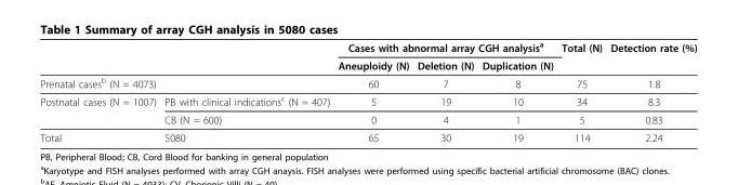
<table><thead><tr><td rowspan="2"></td><td rowspan="2"></td><td colspan="3">Cases with abnormal array CGH analysis<sup>a</sup></td><td rowspan="2">Total (N)</td><td rowspan="2">Detection rate (%)</td></tr><tr><td>Aneuploidy (N)</td><td>Deletion (N)</td><td>Duplication (N)</td></tr></thead><tbody><tr><td>Prenatal cases<sup>b</sup> (N = 4073)</td><td></td><td>60</td><td>7</td><td>8</td><td>75</td><td>1.8</td></tr><tr><td rowspan="2">Postnatal cases (N = 1007)</td><td>PB with clinical indications<sup>c</sup> (N = 407)</td><td>5</td><td>19</td><td>10</td><td>34</td><td>8.3</td></tr><tr><td>CB (N = 600)</td><td>0</td><td>4</td><td>1</td><td>5</td><td>0.83</td></tr><tr><td>Total</td><td>5080</td><td>65</td><td>30</td><td>19</td><td>114</td><td>2.24</td></tr></tbody></table>